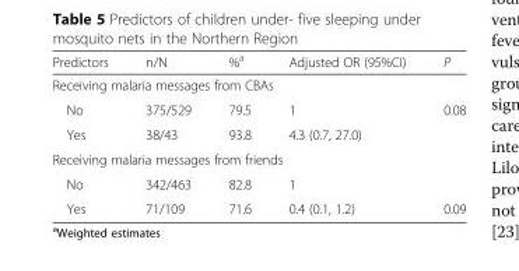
<table><thead><tr><td>Predictors</td><td>n/N</td><td>%<sup>a</sup></td><td>Adjusted OR (95%CI)</td><td>P</td></tr></thead><tbody><tr><td colspan="5">Receiving malaria messages from CBAs</td></tr><tr><td>No</td><td>375/529</td><td>79.5</td><td>1</td><td>0.08</td></tr><tr><td>Yes</td><td>38/43</td><td>93.8</td><td>4.3 (0.7, 27.0)</td><td></td></tr><tr><td colspan="5">Receiving malaria messages from friends</td></tr><tr><td>No</td><td>342/463</td><td>82.8</td><td>1</td><td></td></tr><tr><td>Yes</td><td>71/109</td><td>71.6</td><td>0.4 (0.1, 1.2)</td><td>0.09</td></tr></tbody></table>